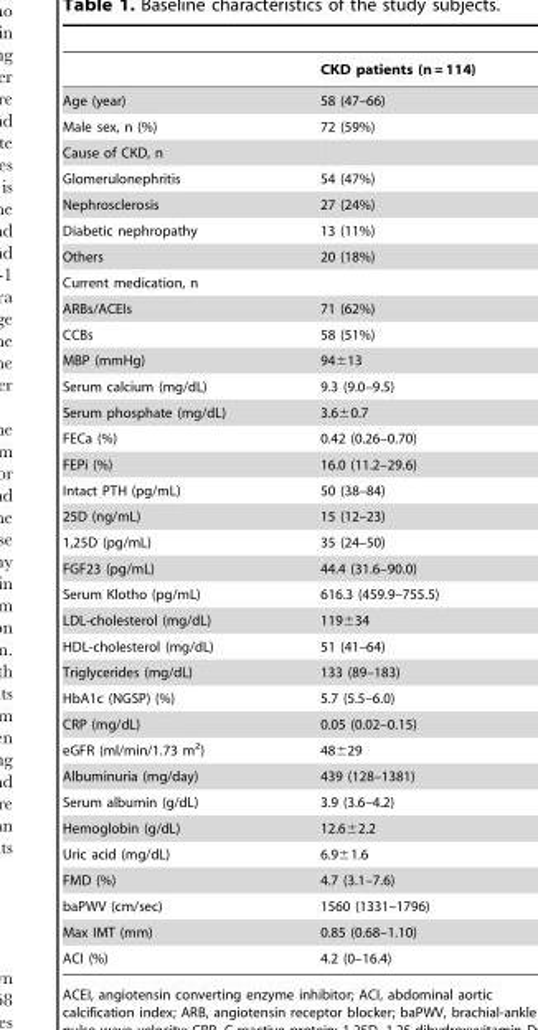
<table><thead><tr><td></td><td>CKD patients (n = 114)</td></tr></thead><tbody><tr><td>Age (year)</td><td>58 (47–66)</td></tr><tr><td>Male sex, n (%)</td><td>72 (59%)</td></tr><tr><td colspan="2">Cause of CKD, n</td></tr><tr><td>Glomerulonephritis</td><td>54 (47%)</td></tr><tr><td>Nephrosclerosis</td><td>27 (24%)</td></tr><tr><td>Diabetic nephropathy</td><td>13 (11%)</td></tr><tr><td>Others</td><td>20 (18%)</td></tr><tr><td colspan="2">Current medication, n</td></tr><tr><td>ARBs/ACEIs</td><td>71 (62%)</td></tr><tr><td>CCBs</td><td>58 (51%)</td></tr><tr><td>MBP (mmHg)</td><td>94±13</td></tr><tr><td>Serum calcium (mg/dL)</td><td>9.3 (9.0–9.5)</td></tr><tr><td>Serum phosphate (mg/dL)</td><td>3.6±0.7</td></tr><tr><td>FECa (%)</td><td>0.42 (0.26–0.70)</td></tr><tr><td>FEPi (%)</td><td>16.0 (11.2–29.6)</td></tr><tr><td>Intact PTH (pg/mL)</td><td>50 (38–84)</td></tr><tr><td>25D (ng/mL)</td><td>15 (12–23)</td></tr><tr><td>1,25D (pg/mL)</td><td>35 (24–50)</td></tr><tr><td>FGF23 (pg/mL)</td><td>44.4 (31.6–90.0)</td></tr><tr><td>Serum Klotho (pg/mL)</td><td>616.3 (459.9–755.5)</td></tr><tr><td>LDL-cholesterol (mg/dL)</td><td>119±34</td></tr><tr><td>HDL-cholesterol (mg/dL)</td><td>51 (41–64)</td></tr><tr><td>Triglycerides (mg/dL)</td><td>133 (89–183)</td></tr><tr><td>HbA1c (NGSP) (%)</td><td>5.7 (5.5–6.0)</td></tr><tr><td>CRP (mg/dL)</td><td>0.05 (0.02–0.15)</td></tr><tr><td>eGFR (ml/min/1.73 m<sup>2</sup>)</td><td>48±29</td></tr><tr><td>Albuminuria (mg/day)</td><td>439 (128–1381)</td></tr><tr><td>Serum albumin (g/dL)</td><td>3.9 (3.6–4.2)</td></tr><tr><td>Hemoglobin (g/dL)</td><td>12.6±2.2</td></tr><tr><td>Uric acid (mg/dL)</td><td>6.9±1.6</td></tr><tr><td>FMD (%)</td><td>4.7 (3.1–7.6)</td></tr><tr><td>baPWV (cm/sec)</td><td>1560 (1331–1796)</td></tr><tr><td>Max IMT (mm)</td><td>0.85 (0.68–1.10)</td></tr><tr><td>ACI (%)</td><td>4.2 (0–16.4)</td></tr></tbody></table>